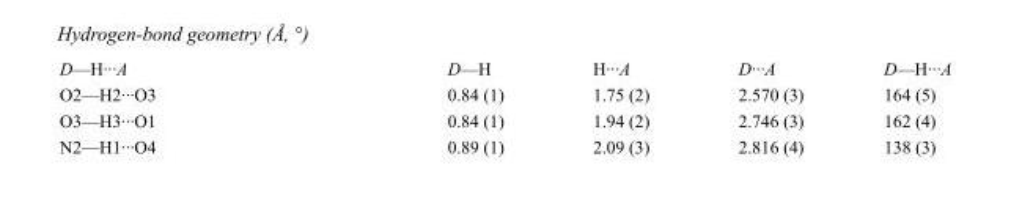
<table><tbody><tr><td>D—H···A</td><td>D—H</td><td>H···A</td><td>D···A</td><td>D—H···A</td></tr><tr><td>O2—H2···O3</td><td>0.84 (1)</td><td>1.75 (2)</td><td>2.570 (3)</td><td>164 (5)</td></tr><tr><td>O3—H3···O1</td><td>0.84 (1)</td><td>1.94 (2)</td><td>2.746 (3)</td><td>162 (4)</td></tr><tr><td>N2—H1···O4</td><td>0.89 (1)</td><td>2.09 (3)</td><td>2.816 (4)</td><td>138 (3)</td></tr></tbody></table>